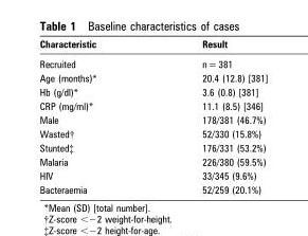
<table><thead><tr><td>Characteristic</td><td>Result</td></tr></thead><tbody><tr><td>Recruited</td><td>n = 381</td></tr><tr><td>Age (months)*</td><td>20.4 (12.8) [381]</td></tr><tr><td>Hb (g/dl)*</td><td>3.6 (0.8) [381]</td></tr><tr><td>CRP (mg/ml)*</td><td>11.1 (8.5) [346]</td></tr><tr><td>Male</td><td>178/381 (46.7%)</td></tr><tr><td>Wasted†</td><td>52/330 (15.8%)</td></tr><tr><td>Stunted‡</td><td>176/331 (53.2%)</td></tr><tr><td>Malaria</td><td>226/380 (59.5%)</td></tr><tr><td>HIV</td><td>33/345 (9.6%)</td></tr><tr><td>Bacteraemia</td><td>52/259 (20.1%)</td></tr></tbody></table>